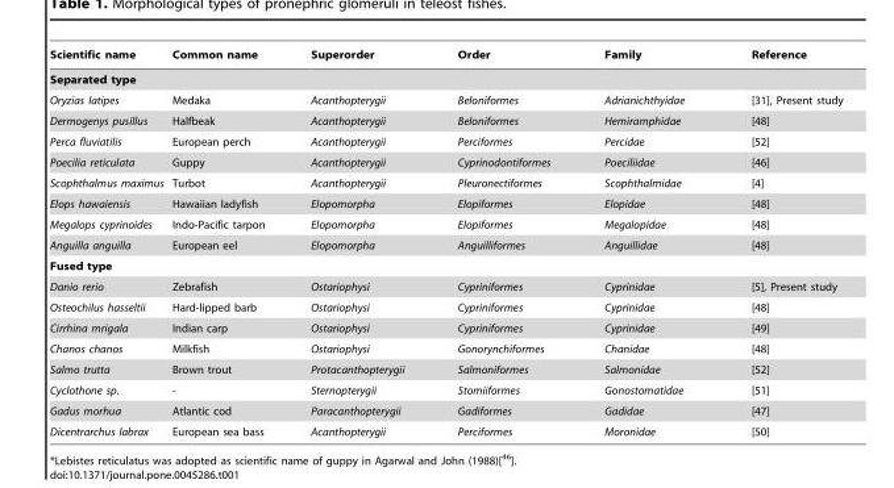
<table><thead><tr><td>Scientific name</td><td>Common name</td><td>Superorder</td><td>Order</td><td>Family</td><td>Reference</td></tr></thead><tbody><tr><td colspan="6">Separated type</td></tr><tr><td>Oryzias latipes</td><td>Medaka</td><td>Acanthopterygii</td><td>Beloniformes</td><td>Adrianichthyidae</td><td>[31], Present study</td></tr><tr><td>Dermogenys pusillus</td><td>Halfbeak</td><td>Acanthopterygii</td><td>Beloniformes</td><td>Hemiramphidae</td><td>[48]</td></tr><tr><td>Perca fluviatilis</td><td>European perch</td><td>Acanthopterygii</td><td>Perciformes</td><td>Percidae</td><td>[52]</td></tr><tr><td>Poecilia reticulata</td><td>Guppy</td><td>Acanthopterygii</td><td>Cyprinodontiformes</td><td>Poeciliidae</td><td>[46]</td></tr><tr><td>Scophthalmus maximus</td><td>Turbot</td><td>Acanthopterygii</td><td>Pleuronectiformes</td><td>Scophthalmidae</td><td>[4]</td></tr><tr><td>Elops hawaiensis</td><td>Hawaiian ladyfish</td><td>Elopomorpha</td><td>Elopiformes</td><td>Elopidae</td><td>[48]</td></tr><tr><td>Megalops cyprinoides</td><td>Indo-Pacific tarpon</td><td>Elopomorpha</td><td>Elopiformes</td><td>Megalopidae</td><td>[48]</td></tr><tr><td>Anguilla anguilla</td><td>European eel</td><td>Elopomorpha</td><td>Anguilliformes</td><td>Anguillidae</td><td>[48]</td></tr><tr><td colspan="6">Fused type</td></tr><tr><td>Danio rerio</td><td>Zebrafish</td><td>Ostariophysi</td><td>Cypriniformes</td><td>Cyprinidae</td><td>[5], Present study</td></tr><tr><td>Osteochilus hasseltii</td><td>Hard-lipped barb</td><td>Ostariophysi</td><td>Cypriniformes</td><td>Cyprinidae</td><td>[48]</td></tr><tr><td>Cirrhina mrigala</td><td>Indian carp</td><td>Ostariophysi</td><td>Cypriniformes</td><td>Cyprinidae</td><td>[49]</td></tr><tr><td>Chanos chanos</td><td>Milkfish</td><td>Ostariophysi</td><td>Gonorynchiformes</td><td>Chanidae</td><td>[48]</td></tr><tr><td>Salmo trutta</td><td>Brown trout</td><td>Protacanthopterygii</td><td>Salmoniformes</td><td>Salmonidae</td><td>[52]</td></tr><tr><td>Cyclothone sp.</td><td>-</td><td>Sternopterygii</td><td>Stomiiformes</td><td>Gonostomatidae</td><td>[51]</td></tr><tr><td>Gadus morhua</td><td>Atlantic cod</td><td>Paracanthopterygii</td><td>Gadiformes</td><td>Gadidae</td><td>[47]</td></tr><tr><td>Dicentrarchus labrax</td><td>European sea bass</td><td>Acanthopterygii</td><td>Perciformes</td><td>Moronidae</td><td>[50]</td></tr></tbody></table>